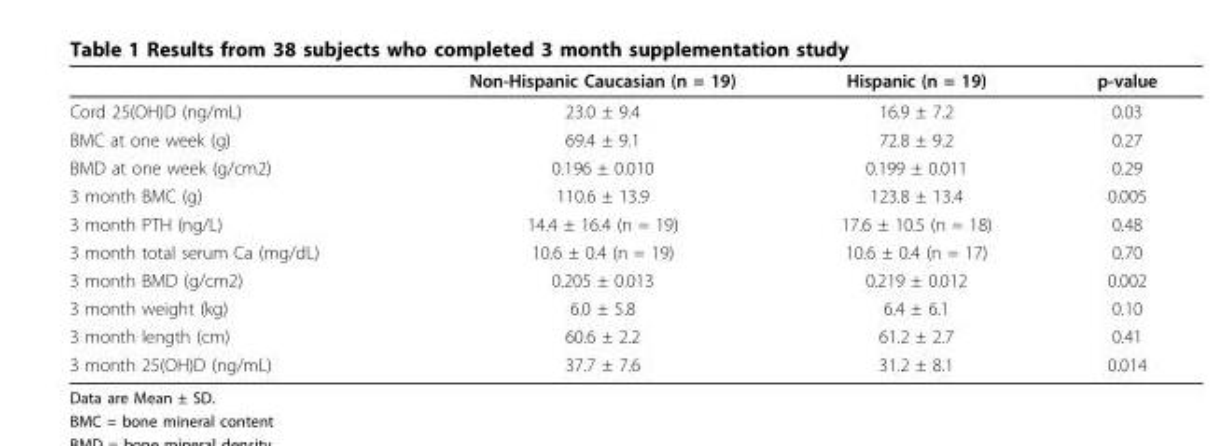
<table><thead><tr><td></td><td>Non-Hispanic Caucasian (n = 19)</td><td>Hispanic (n = 19)</td><td>p-value</td></tr></thead><tbody><tr><td>Cord 25(OH)D (ng/mL)</td><td>23.0 ± 9.4</td><td>16.9 ± 7.2</td><td>0.03</td></tr><tr><td>BMC at one week (g)</td><td>69.4 ± 9.1</td><td>72.8 ± 9.2</td><td>0.27</td></tr><tr><td>BMD at one week (g/cm2)</td><td>0.196 ± 0.010</td><td>0.199 ± 0.011</td><td>0.29</td></tr><tr><td>3 month BMC (g)</td><td>110.6 ± 13.9</td><td>123.8 ± 13.4</td><td>0.005</td></tr><tr><td>3 month PTH (ng/L)</td><td>14.4 ± 16.4 (n = 19)</td><td>17.6 ± 10.5 (n = 18)</td><td>0.48</td></tr><tr><td>3 month total serum Ca (mg/dL)</td><td>10.6 ± 0.4 (n = 19)</td><td>10.6 ± 0.4 (n = 17)</td><td>0.70</td></tr><tr><td>3 month BMD (g/cm2)</td><td>0.205 ± 0.013</td><td>0.219 ± 0.012</td><td>0.002</td></tr><tr><td>3 month weight (kg)</td><td>6.0 ± 5.8</td><td>6.4 ± 6.1</td><td>0.10</td></tr><tr><td>3 month length (cm)</td><td>60.6 ± 2.2</td><td>61.2 ± 2.7</td><td>0.41</td></tr><tr><td>3 month 25(OH)D (ng/mL)</td><td>37.7 ± 7.6</td><td>31.2 ± 8.1</td><td>0.014</td></tr></tbody></table>